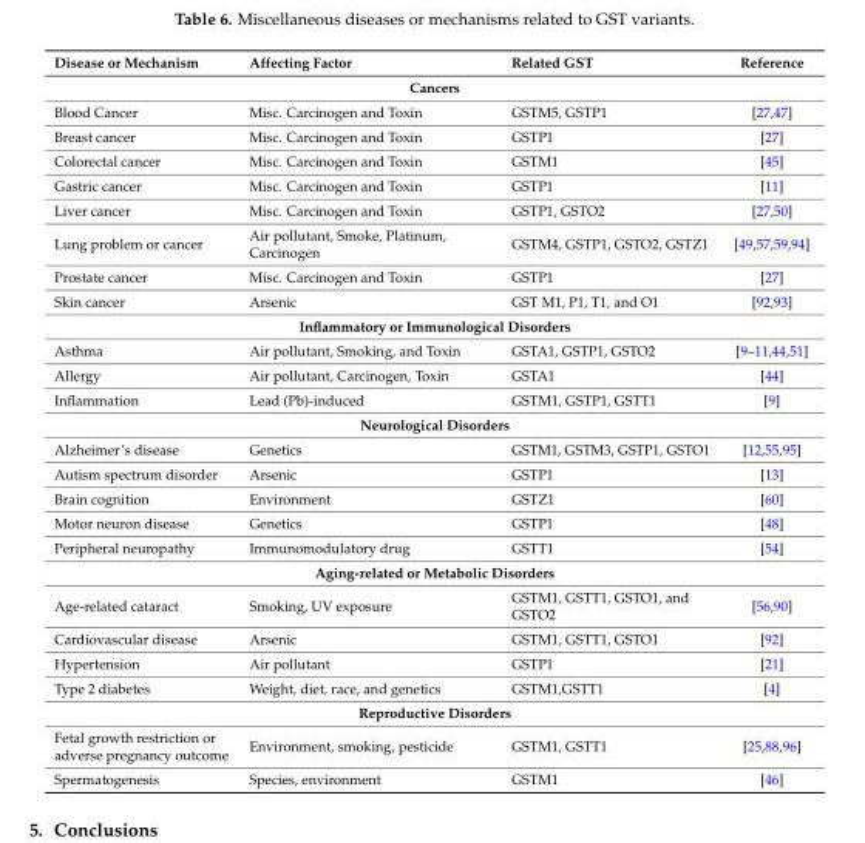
<table><thead><tr><td>Disease or Mechanism</td><td>Affecting Factor</td><td>Related GST</td><td>Reference</td></tr></thead><tbody><tr><td colspan="4">Cancers</td></tr><tr><td>Blood Cancer</td><td>Misc. Carcinogen and Toxin</td><td>GSTM5, GSTP1</td><td>[27,47]</td></tr><tr><td>Breast cancer</td><td>Misc. Carcinogen and Toxin</td><td>GSTP1</td><td>[27]</td></tr><tr><td>Colorectal cancer</td><td>Misc. Carcinogen and Toxin</td><td>GSTM1</td><td>[45]</td></tr><tr><td>Gastric cancer</td><td>Misc. Carcinogen and Toxin</td><td>GSTP1</td><td>[11]</td></tr><tr><td>Liver cancer</td><td>Misc. Carcinogen and Toxin</td><td>GSTP1, GSTO2</td><td>[27,50]</td></tr><tr><td>Lung problem or cancer</td><td>Air pollutant, Smoke, Platinum, Carcinogen</td><td>GSTM4, GSTP1, GSTO2, GSTZ1</td><td>[49,57,59,94]</td></tr><tr><td>Prostate cancer</td><td>Misc. Carcinogen and Toxin</td><td>GSTP1</td><td>[27]</td></tr><tr><td>Skin cancer</td><td>Arsenic</td><td>GST M1, P1, T1, and O1</td><td>[92,93]</td></tr><tr><td colspan="4">Inflammatory or Immunological Disorders</td></tr><tr><td>Asthma</td><td>Air pollutant, Smoking, and Toxin</td><td>GSTA1, GSTP1, GSTO2</td><td>[9–11,44,51]</td></tr><tr><td>Allergy</td><td>Air pollutant, Carcinogen, Toxin</td><td>GSTA1</td><td>[44]</td></tr><tr><td>Inflammation</td><td>Lead (Pb)-induced</td><td>GSTM1, GSTP1, GSTT1</td><td>[9]</td></tr><tr><td colspan="4">Neurological Disorders</td></tr><tr><td>Alzheimer’s disease</td><td>Genetics</td><td>GSTM1, GSTM3, GSTP1, GSTO1</td><td>[12,55,95]</td></tr><tr><td>Autism spectrum disorder</td><td>Arsenic</td><td>GSTP1</td><td>[13]</td></tr><tr><td>Brain cognition</td><td>Environment</td><td>GSTZ1</td><td>[60]</td></tr><tr><td>Motor neuron disease</td><td>Genetics</td><td>GSTP1</td><td>[48]</td></tr><tr><td>Peripheral neuropathy</td><td>Immunomodulatory drug</td><td>GSTT1</td><td>[54]</td></tr><tr><td colspan="4">Aging-related or Metabolic Disorders</td></tr><tr><td>Age-related cataract</td><td>Smoking, UV exposure</td><td>GSTM1, GSTT1, GSTO1, and GSTO2</td><td>[56,90]</td></tr><tr><td>Cardiovascular disease</td><td>Arsenic</td><td>GSTM1, GSTT1, GSTO1</td><td>[92]</td></tr><tr><td>Hypertension</td><td>Air pollutant</td><td>GSTP1</td><td>[21]</td></tr><tr><td>Type 2 diabetes</td><td>Weight, diet, race, and genetics</td><td>GSTM1,GSTT1</td><td>[4]</td></tr><tr><td colspan="4">Reproductive Disorders</td></tr><tr><td>Fetal growth restriction or adverse pregnancy outcome</td><td>Environment, smoking, pesticide</td><td>GSTM1, GSTT1</td><td>[25,88,96]</td></tr><tr><td>Spermatogenesis</td><td>Species, environment</td><td>GSTM1</td><td>[46]</td></tr></tbody></table>